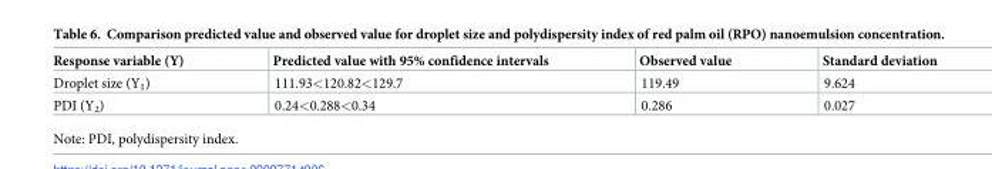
<table><thead><tr><td>Response variable (Y)</td><td>Predicted value with 95% confidence intervals</td><td>Observed value</td><td>Standard deviation</td></tr></thead><tbody><tr><td>Droplet size (Y<sub>1</sub>)</td><td>111.93&lt;120.82&lt;129.7</td><td>119.49</td><td>9.624</td></tr><tr><td>PDI (Y<sub>2</sub>)</td><td>0.24&lt;0.288&lt;0.34</td><td>0.286</td><td>0.027</td></tr></tbody></table>